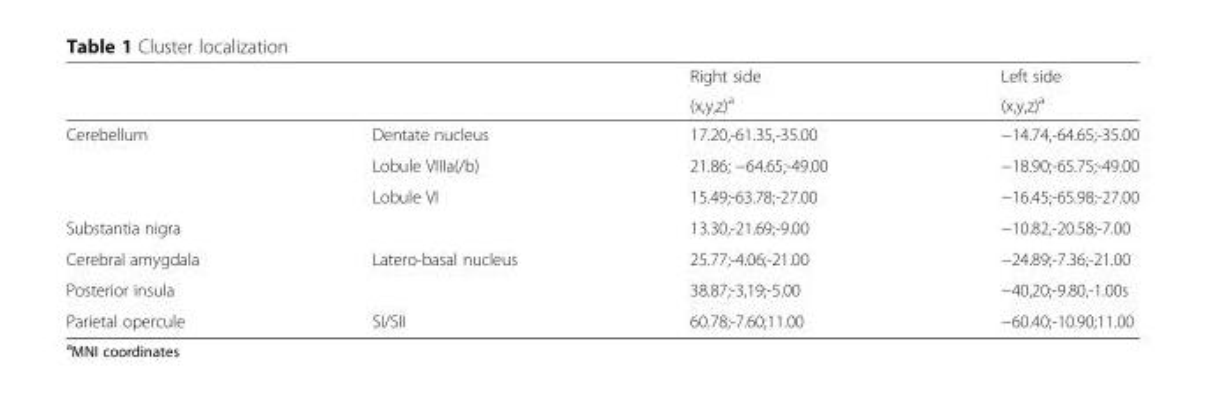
<table><thead><tr><td rowspan="2"></td><td rowspan="2"></td><td rowspan="2">Right side (x,y,z)<sup>a</sup></td><td rowspan="2">Left side (x,y,z)<sup>a</sup></td></tr><tr></tr></thead><tbody><tr><td rowspan="3">Cerebellum</td><td>Dentate nucleus</td><td>17.20,-61.35,-35.00</td><td>−14.74,-64.65;-35.00</td></tr><tr><td>Lobule VIIIa(/b)</td><td>21.86; −64.65;-49.00</td><td>−18.90;-65.75;-49.00</td></tr><tr><td>Lobule VI</td><td>15.49;-63.78;-27.00</td><td>−16.45;-65.98;-27.00</td></tr><tr><td>Substantia nigra</td><td></td><td>13.30,-21.69;-9.00</td><td>−10.82,-20.58;-7.00</td></tr><tr><td>Cerebral amygdala</td><td>Latero-basal nucleus</td><td>25.77;-4.06;-21.00</td><td>−24.89;-7.36;-21.00</td></tr><tr><td>Posterior insula</td><td></td><td>38.87;-3,19;-5.00</td><td>−40,20;-9.80,-1.00s</td></tr><tr><td>Parietal opercule</td><td>SI/SII</td><td>60.78;-7.60;11.00</td><td>−60.40;-10.90;11.00</td></tr></tbody></table>